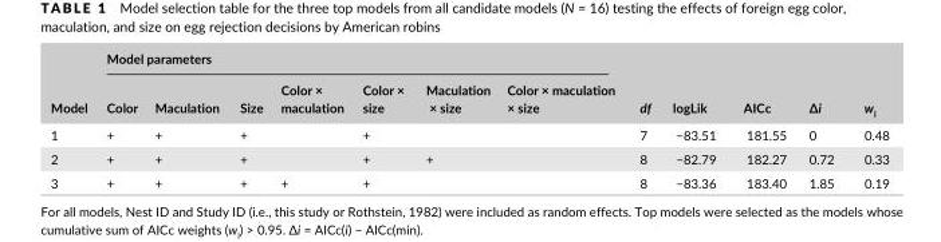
<table><thead><tr><td rowspan="2">Model</td><td colspan="7">Model parameters</td><td rowspan="2">df</td><td rowspan="2">logLik</td><td rowspan="2">AICc</td><td rowspan="2">∆i</td><td rowspan="2">w<sub>i</sub></td></tr><tr><td>Color</td><td>Maculation</td><td>Size</td><td>Color × maculation</td><td>Color × size</td><td>Maculation × size</td><td>Color × maculation × size</td></tr></thead><tbody><tr><td>1</td><td>+</td><td>+</td><td>+</td><td></td><td>+</td><td></td><td></td><td>7</td><td>−83.51</td><td>181.55</td><td>0</td><td>0.48</td></tr><tr><td>2</td><td>+</td><td>+</td><td>+</td><td></td><td>+</td><td>+</td><td></td><td>8</td><td>−82.79</td><td>182.27</td><td>0.72</td><td>0.33</td></tr><tr><td>3</td><td>+</td><td>+</td><td>+</td><td>+</td><td>+</td><td></td><td></td><td>8</td><td>−83.36</td><td>183.40</td><td>1.85</td><td>0.19</td></tr></tbody></table>